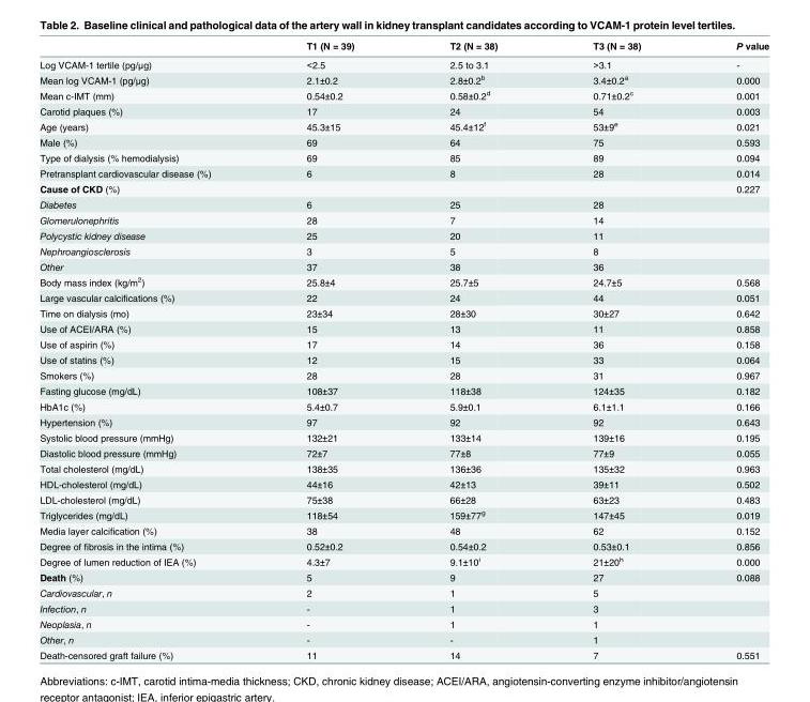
<table><thead><tr><td></td><td>T1 (N = 39)</td><td>T2 (N = 38)</td><td>T3 (N = 38)</td><td>P value</td></tr></thead><tbody><tr><td>Log VCAM-1 tertile (pg/μg)</td><td>&lt;2.5</td><td>2.5 to 3.1</td><td>&gt;3.1</td><td>-</td></tr><tr><td>Mean log VCAM-1 (pg/μg)</td><td>2.1±0.2</td><td>2.8±0.2<sup>b</sup></td><td>3.4±0.2<sup>a</sup></td><td>0.000</td></tr><tr><td>Mean c-IMT (mm)</td><td>0.54±0.2</td><td>0.58±0.2<sup>d</sup></td><td>0.71±0.2<sup>c</sup></td><td>0.001</td></tr><tr><td>Carotid plaques (%)</td><td>17</td><td>24</td><td>54</td><td>0.003</td></tr><tr><td>Age (years)</td><td>45.3±15</td><td>45.4±12<sup>f</sup></td><td>53±9<sup>e</sup></td><td>0.021</td></tr><tr><td>Male (%)</td><td>69</td><td>64</td><td>75</td><td>0.593</td></tr><tr><td>Type of dialysis (% hemodialysis)</td><td>69</td><td>85</td><td>89</td><td>0.094</td></tr><tr><td>Pretransplant cardiovascular disease (%)</td><td>6</td><td>8</td><td>28</td><td>0.014</td></tr><tr><td>Cause of CKD (%)</td><td></td><td></td><td></td><td>0.227</td></tr><tr><td>Diabetes</td><td>6</td><td>25</td><td>28</td><td></td></tr><tr><td>Glomerulonephritis</td><td>28</td><td>7</td><td>14</td><td></td></tr><tr><td>Polycystic kidney disease</td><td>25</td><td>20</td><td>11</td><td></td></tr><tr><td>Nephroangiosclerosis</td><td>3</td><td>5</td><td>8</td><td></td></tr><tr><td>Other</td><td>37</td><td>38</td><td>36</td><td></td></tr><tr><td>Body mass index (kg/m<sup>2</sup>)</td><td>25.8±4</td><td>25.7±5</td><td>24.7±5</td><td>0.568</td></tr><tr><td>Large vascular calcifications (%)</td><td>22</td><td>24</td><td>44</td><td>0.051</td></tr><tr><td>Time on dialysis (mo)</td><td>23±34</td><td>28±30</td><td>30±27</td><td>0.642</td></tr><tr><td>Use of ACEI/ARA (%)</td><td>15</td><td>13</td><td>11</td><td>0.858</td></tr><tr><td>Use of aspirin (%)</td><td>17</td><td>14</td><td>36</td><td>0.158</td></tr><tr><td>Use of statins (%)</td><td>12</td><td>15</td><td>33</td><td>0.064</td></tr><tr><td>Smokers (%)</td><td>28</td><td>28</td><td>31</td><td>0.967</td></tr><tr><td>Fasting glucose (mg/dL)</td><td>108±37</td><td>118±38</td><td>124±35</td><td>0.182</td></tr><tr><td>HbA1c (%)</td><td>5.4±0.7</td><td>5.9±0.1</td><td>6.1±1.1</td><td>0.166</td></tr><tr><td>Hypertension (%)</td><td>97</td><td>92</td><td>92</td><td>0.643</td></tr><tr><td>Systolic blood pressure (mmHg)</td><td>132±21</td><td>133±14</td><td>139±16</td><td>0.195</td></tr><tr><td>Diastolic blood pressure (mmHg)</td><td>72±7</td><td>77±8</td><td>77±9</td><td>0.055</td></tr><tr><td>Total cholesterol (mg/dL)</td><td>138±35</td><td>136±36</td><td>135±32</td><td>0.963</td></tr><tr><td>HDL-cholesterol (mg/dL)</td><td>44±16</td><td>42±13</td><td>39±11</td><td>0.502</td></tr><tr><td>LDL-cholesterol (mg/dL)</td><td>75±38</td><td>66±28</td><td>63±23</td><td>0.483</td></tr><tr><td>Triglycerides (mg/dL)</td><td>118±54</td><td>159±77<sup>g</sup></td><td>147±45</td><td>0.019</td></tr><tr><td>Media layer calcification (%)</td><td>38</td><td>48</td><td>62</td><td>0.152</td></tr><tr><td>Degree of fibrosis in the intima (%)</td><td>0.52±0.2</td><td>0.54±0.2</td><td>0.53±0.1</td><td>0.856</td></tr><tr><td>Degree of lumen reduction of IEA (%)</td><td>4.3±7</td><td>9.1±10<sup>i</sup></td><td>21±20<sup>h</sup></td><td>0.000</td></tr><tr><td>Death (%)</td><td>5</td><td>9</td><td>27</td><td>0.088</td></tr><tr><td>Cardiovascular, n</td><td>2</td><td>1</td><td>5</td><td></td></tr><tr><td>Infection, n</td><td>-</td><td>1</td><td>3</td><td></td></tr><tr><td>Neoplasia, n</td><td>-</td><td>1</td><td>1</td><td></td></tr><tr><td>Other, n</td><td>-</td><td>-</td><td>1</td><td></td></tr><tr><td>Death-censored graft failure (%)</td><td>11</td><td>14</td><td>7</td><td>0.551</td></tr></tbody></table>